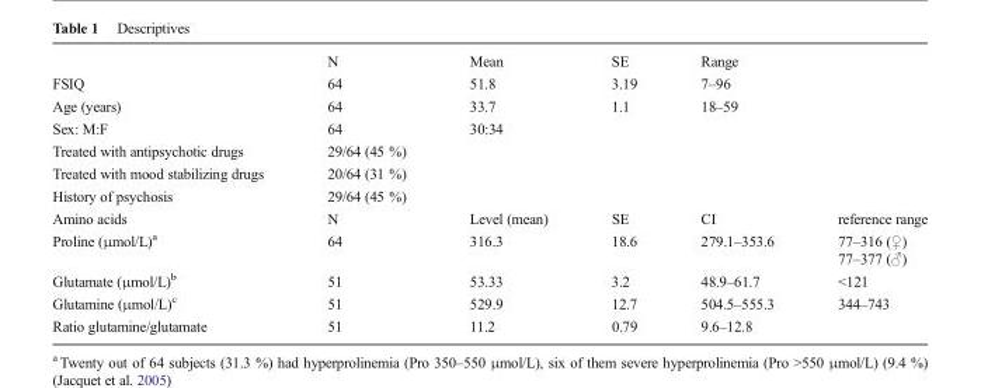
<table><thead><tr><td></td><td>N</td><td>Mean</td><td>SE</td><td>Range</td><td></td></tr></thead><tbody><tr><td>FSIQ</td><td>64</td><td>51.8</td><td>3.19</td><td>7–96</td><td></td></tr><tr><td>Age (years)</td><td>64</td><td>33.7</td><td>1.1</td><td>18–59</td><td></td></tr><tr><td>Sex: M:F</td><td>64</td><td>30:34</td><td></td><td></td><td></td></tr><tr><td>Treated with antipsychotic drugs</td><td>29/64 (45 %)</td><td></td><td></td><td></td><td></td></tr><tr><td>Treated with mood stabilizing drugs</td><td>20/64 (31 %)</td><td></td><td></td><td></td><td></td></tr><tr><td>History of psychosis</td><td>29/64 (45 %)</td><td></td><td></td><td></td><td></td></tr><tr><td>Amino acids</td><td>N</td><td>Level (mean)</td><td>SE</td><td>CI</td><td>reference range</td></tr><tr><td>Proline (μmol/L)<sup>a</sup></td><td>64</td><td>316.3</td><td>18.6</td><td>279.1–353.6</td><td>77–316 (♀) 77–377 (♂)</td></tr><tr><td>Glutamate (μmol/L)<sup>b</sup></td><td>51</td><td>53.33</td><td>3.2</td><td>48.9–61.7</td><td>&lt;121</td></tr><tr><td>Glutamine (μmol/L)<sup>c</sup></td><td>51</td><td>529.9</td><td>12.7</td><td>504.5–555.3</td><td>344–743</td></tr><tr><td>Ratio glutamine/glutamate</td><td>51</td><td>11.2</td><td>0.79</td><td>9.6–12.8</td><td></td></tr></tbody></table>